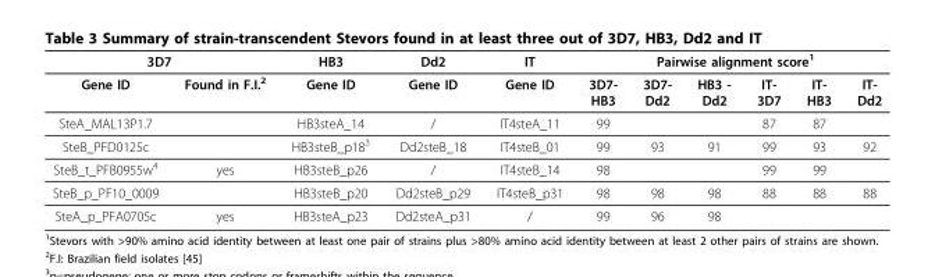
<table><thead><tr><td colspan="2">3D7</td><td rowspan="2">HB3 Gene ID</td><td rowspan="2">Dd2 Gene ID</td><td rowspan="2">IT Gene ID</td><td colspan="6">Pairwise alignment score1</td></tr><tr><td>Gene ID</td><td>Found in F.I.2</td><td>3D7- HB3</td><td>3D7- Dd2</td><td>HB3 - Dd2</td><td>IT- 3D7</td><td>IT- HB3</td><td>IT- Dd2</td></tr></thead><tbody><tr><td>SteA_MAL13P1.7</td><td></td><td>HB3steA_14</td><td>/</td><td>IT4steA_11</td><td>99</td><td></td><td></td><td>87</td><td>87</td><td></td></tr><tr><td>SteB_PFD0125c</td><td></td><td>HB3steB_p183</td><td>Dd2steB_18</td><td>IT4steB_01</td><td>99</td><td>93</td><td>91</td><td>99</td><td>93</td><td>92</td></tr><tr><td>SteB_t_PFB0955w4</td><td>yes</td><td>HB3steB_p26</td><td>/</td><td>IT4steB_14</td><td>98</td><td></td><td></td><td>99</td><td>99</td><td></td></tr><tr><td>SteB_p_PF10_0009</td><td></td><td>HB3steB_p20</td><td>Dd2steB_p29</td><td>IT4steB_p31</td><td>98</td><td>98</td><td>98</td><td>88</td><td>88</td><td>88</td></tr><tr><td>SteA_p_PFA0705c</td><td>yes</td><td>HB3steA_p23</td><td>Dd2steA_p31</td><td>/</td><td>99</td><td>96</td><td>98</td><td></td><td></td><td></td></tr></tbody></table>